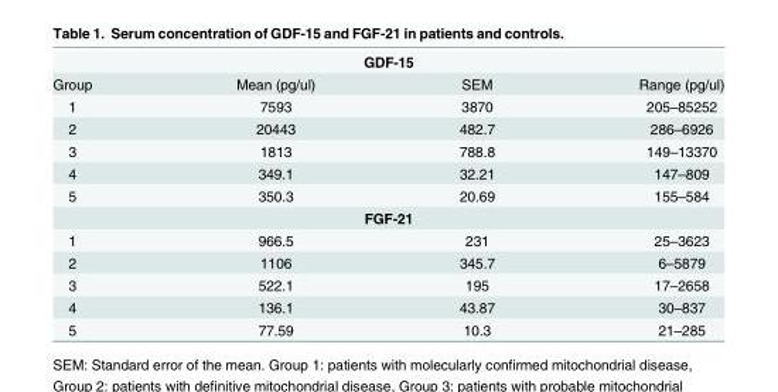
<table><tbody><tr><td colspan="4">GDF-15</td></tr><tr><td>Group</td><td>Mean (pg/ul)</td><td>SEM</td><td>Range (pg/ul)</td></tr><tr><td>1</td><td>7593</td><td>3870</td><td>205–85252</td></tr><tr><td>2</td><td>20443</td><td>482.7</td><td>286–6926</td></tr><tr><td>3</td><td>1813</td><td>788.8</td><td>149–13370</td></tr><tr><td>4</td><td>349.1</td><td>32.21</td><td>147–809</td></tr><tr><td>5</td><td>350.3</td><td>20.69</td><td>155–584</td></tr><tr><td colspan="4">FGF-21</td></tr><tr><td>1</td><td>966.5</td><td>231</td><td>25–3623</td></tr><tr><td>2</td><td>1106</td><td>345.7</td><td>6–5879</td></tr><tr><td>3</td><td>522.1</td><td>195</td><td>17–2658</td></tr><tr><td>4</td><td>136.1</td><td>43.87</td><td>30–837</td></tr><tr><td>5</td><td>77.59</td><td>10.3</td><td>21–285</td></tr></tbody></table>